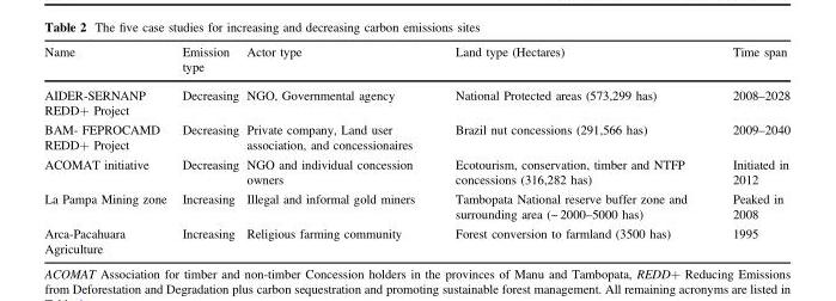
<table><thead><tr><td>Name</td><td>Emission type</td><td>Actor type</td><td>Land type (Hectares)</td><td>Time span</td></tr></thead><tbody><tr><td>AIDER-SERNANP REDD+ Project</td><td>Decreasing</td><td>NGO, Governmental agency</td><td>National Protected areas (573,299 has)</td><td>2008–2028</td></tr><tr><td>BAM- FEPROCAMD REDD+ Project</td><td>Decreasing</td><td>Private company, Land user association, and concessionaires</td><td>Brazil nut concessions (291,566 has)</td><td>2009–2040</td></tr><tr><td>ACOMAT initiative</td><td>Decreasing</td><td>NGO and individual concession owners</td><td>Ecotourism, conservation, timber and NTFP concessions (316,282 has)</td><td>Initiated in 2012</td></tr><tr><td>La Pampa Mining zone</td><td>Increasing</td><td>Illegal and informal gold miners</td><td>Tambopata National reserve buffer zone and surrounding area (~ 2000–5000 has)</td><td>Peaked in 2008</td></tr><tr><td>Arca-Pacahuara Agriculture</td><td>Increasing</td><td>Religious farming community</td><td>Forest conversion to farmland (3500 has)</td><td>1995</td></tr></tbody></table>